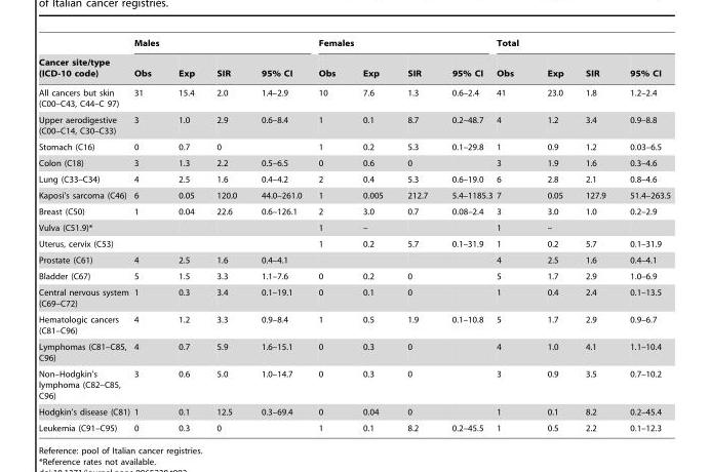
<table><thead><tr><td rowspan="2">Cancer site/type (ICD-10 code)</td><td colspan="4">Males</td><td colspan="4">Females</td><td colspan="4">Total</td></tr><tr><td>Obs</td><td>Exp</td><td>SIR</td><td>95% CI</td><td>Obs</td><td>Exp</td><td>SIR</td><td>95% CI</td><td>Obs</td><td>Exp</td><td>SIR</td><td>95% CI</td></tr></thead><tbody><tr><td>All cancers but skin (C00–C43, C44–C 97)</td><td>31</td><td>15.4</td><td>2.0</td><td>1.4–2.9</td><td>10</td><td>7.6</td><td>1.3</td><td>0.6–2.4</td><td>41</td><td>23.0</td><td>1.8</td><td>1.2–2.4</td></tr><tr><td>Upper aerodigestive (C00–C14, C30–C33)</td><td>3</td><td>1.0</td><td>2.9</td><td>0.6–8.4</td><td>1</td><td>0.1</td><td>8.7</td><td>0.2–48.7</td><td>4</td><td>1.2</td><td>3.4</td><td>0.9–8.8</td></tr><tr><td>Stomach (C16)</td><td>0</td><td>0.7</td><td>0</td><td></td><td>1</td><td>0.2</td><td>5.3</td><td>0.1–29.8</td><td>1</td><td>0.9</td><td>1.2</td><td>0.03–6.5</td></tr><tr><td>Colon (C18)</td><td>3</td><td>1.3</td><td>2.2</td><td>0.5–6.5</td><td>0</td><td>0.6</td><td>0</td><td></td><td>3</td><td>1.9</td><td>1.6</td><td>0.3–4.6</td></tr><tr><td>Lung (C33–C34)</td><td>4</td><td>2.5</td><td>1.6</td><td>0.4–4.2</td><td>2</td><td>0.4</td><td>5.3</td><td>0.6–19.0</td><td>6</td><td>2.8</td><td>2.1</td><td>0.8–4.6</td></tr><tr><td>Kaposi’s sarcoma (C46)</td><td>6</td><td>0.05</td><td>120.0</td><td>44.0–261.0</td><td>1</td><td>0.005</td><td>212.7</td><td>5.4–1185.3</td><td>7</td><td>0.05</td><td>127.9</td><td>51.4–263.5</td></tr><tr><td>Breast (C50)</td><td>1</td><td>0.04</td><td>22.6</td><td>0.6–126.1</td><td>2</td><td>3.0</td><td>0.7</td><td>0.08–2.4</td><td>3</td><td>3.0</td><td>1.0</td><td>0.2–2.9</td></tr><tr><td>Vulva (C51.9)*</td><td></td><td></td><td></td><td></td><td>1</td><td>–</td><td></td><td></td><td>1</td><td>–</td><td></td><td></td></tr><tr><td>Uterus, cervix (C53)</td><td></td><td></td><td></td><td></td><td>1</td><td>0.2</td><td>5.7</td><td>0.1–31.9</td><td>1</td><td>0.2</td><td>5.7</td><td>0.1–31.9</td></tr><tr><td>Prostate (C61)</td><td>4</td><td>2.5</td><td>1.6</td><td>0.4–4.1</td><td></td><td></td><td></td><td></td><td>4</td><td>2.5</td><td>1.6</td><td>0.4–4.1</td></tr><tr><td>Bladder (C67)</td><td>5</td><td>1.5</td><td>3.3</td><td>1.1–7.6</td><td>0</td><td>0.2</td><td>0</td><td></td><td>5</td><td>1.7</td><td>2.9</td><td>1.0–6.9</td></tr><tr><td>Central nervous system (C69–C72)</td><td>1</td><td>0.3</td><td>3.4</td><td>0.1–19.1</td><td>0</td><td>0.1</td><td>0</td><td></td><td>1</td><td>0.4</td><td>2.4</td><td>0.1–13.5</td></tr><tr><td>Hematologic cancers (C81–C96)</td><td>4</td><td>1.2</td><td>3.3</td><td>0.9–8.4</td><td>1</td><td>0.5</td><td>1.9</td><td>0.1–10.8</td><td>5</td><td>1.7</td><td>2.9</td><td>0.9–6.7</td></tr><tr><td>Lymphomas (C81–C85, C96)</td><td>4</td><td>0.7</td><td>5.9</td><td>1.6–15.1</td><td>0</td><td>0.3</td><td>0</td><td></td><td>4</td><td>1.0</td><td>4.1</td><td>1.1–10.4</td></tr><tr><td>Non–Hodgkin’s lymphoma (C82–C85, C96)</td><td>3</td><td>0.6</td><td>5.0</td><td>1.0–14.7</td><td>0</td><td>0.3</td><td>0</td><td></td><td>3</td><td>0.9</td><td>3.5</td><td>0.7–10.2</td></tr><tr><td>Hodgkin’s disease (C81)</td><td>1</td><td>0.1</td><td>12.5</td><td>0.3–69.4</td><td>0</td><td>0.04</td><td>0</td><td></td><td>1</td><td>0.1</td><td>8.2</td><td>0.2–45.4</td></tr><tr><td>Leukemia (C91–C95)</td><td>0</td><td>0.3</td><td>0</td><td></td><td>1</td><td>0.1</td><td>8.2</td><td>0.2–45.5</td><td>1</td><td>0.5</td><td>2.2</td><td>0.1–12.3</td></tr></tbody></table>